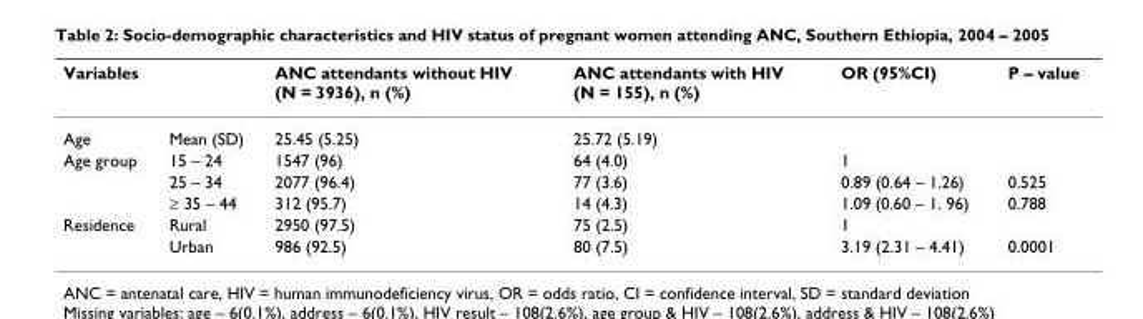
<table><thead><tr><td>Variables</td><td></td><td>ANC attendants without HIV (N = 3936), n (%)</td><td>ANC attendants with HIV (N = 155), n (%)</td><td>OR (95%CI)</td><td>P – value</td></tr></thead><tbody><tr><td>Age</td><td>Mean (SD)</td><td>25.45 (5.25)</td><td>25.72 (5.19)</td><td></td><td></td></tr><tr><td rowspan="3">Age group</td><td>15 – 24</td><td>1547 (96)</td><td>64 (4.0)</td><td>1</td><td></td></tr><tr><td>25 – 34</td><td>2077 (96.4)</td><td>77 (3.6)</td><td>0.89 (0.64 – 1.26)</td><td>0.525</td></tr><tr><td>≥ 35 – 44</td><td>312 (95.7)</td><td>14 (4.3)</td><td>1.09 (0.60 – 1. 96)</td><td>0.788</td></tr><tr><td rowspan="2">Residence</td><td>Rural</td><td>2950 (97.5)</td><td>75 (2.5)</td><td>1</td><td></td></tr><tr><td>Urban</td><td>986 (92.5)</td><td>80 (7.5)</td><td>3.19 (2.31 – 4.41)</td><td>0.0001</td></tr></tbody></table>